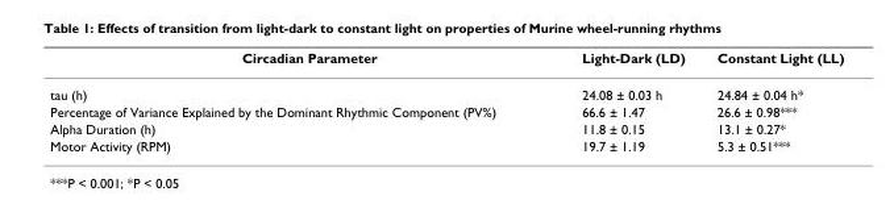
<table><thead><tr><td>Circadian Parameter</td><td>Light-Dark (LD)</td><td>Constant Light (LL)</td></tr></thead><tbody><tr><td>tau (h)</td><td>24.08 ± 0.03 h</td><td>24.84 ± 0.04 h*</td></tr><tr><td>Percentage of Variance Explained by the Dominant Rhythmic Component (PV%)</td><td>66.6 ± 1.47</td><td>26.6 ± 0.98***</td></tr><tr><td>Alpha Duration (h)</td><td>11.8 ± 0.15</td><td>13.1 ± 0.27*</td></tr><tr><td>Motor Activity (RPM)</td><td>19.7 ± 1.19</td><td>5.3 ± 0.51***</td></tr></tbody></table>